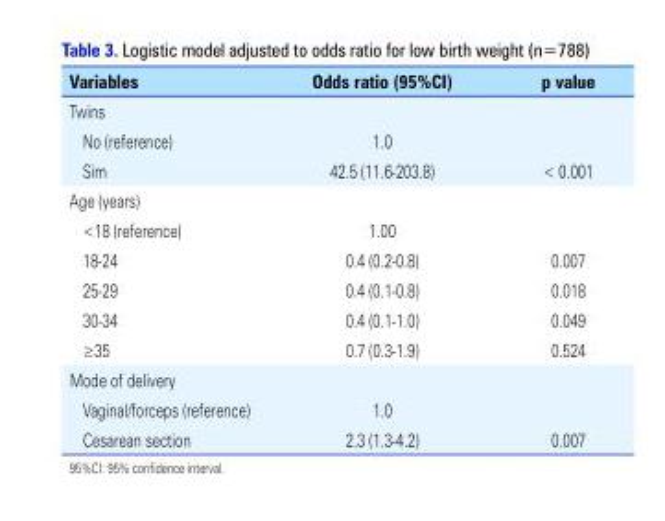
<table><thead><tr><td>Variables</td><td>Odds ratio (95%CI)</td><td>p value</td></tr></thead><tbody><tr><td colspan="3">Twins</td></tr><tr><td>No (reference)</td><td>1.0</td><td></td></tr><tr><td>Sim</td><td>42.5 (11.6-203.8)</td><td>&lt; 0.001</td></tr><tr><td colspan="3">Age (years)</td></tr><tr><td>&lt;18 (reference)</td><td>1.00</td><td></td></tr><tr><td>18-24</td><td>0.4 (0.2-0.8)</td><td>0.007</td></tr><tr><td>25-29</td><td>0.4 (0.1-0.8)</td><td>0.018</td></tr><tr><td>30-34</td><td>0.4 (0.1-1.0)</td><td>0.049</td></tr><tr><td>≥35</td><td>0.7 (0.3-1.9)</td><td>0.524</td></tr><tr><td colspan="3">Mode of delivery</td></tr><tr><td>Vaginal/forceps (reference)</td><td>1.0</td><td></td></tr><tr><td>Cesarean section</td><td>2.3 (1.3-4.2)</td><td>0.007</td></tr></tbody></table>